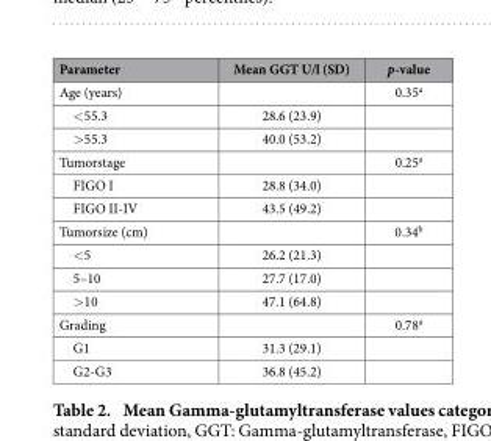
<table><thead><tr><td>Parameter</td><td>Mean GGT U/l (SD)</td><td>p-value</td></tr></thead><tbody><tr><td>Age (years)</td><td></td><td>0.35<sup>a</sup></td></tr><tr><td>&lt; 55.3</td><td>28.6 (23.9)</td><td></td></tr><tr><td>&gt; 55.3</td><td>40.0 (53.2)</td><td></td></tr><tr><td>Tumorstage</td><td></td><td>0.25<sup>a</sup></td></tr><tr><td>FIGO I</td><td>28.8 (34.0)</td><td></td></tr><tr><td>FIGO II-IV</td><td>43.5 (49.2)</td><td></td></tr><tr><td>Tumorsize (cm)</td><td></td><td>0.34<sup>b</sup></td></tr><tr><td>&lt; 5</td><td>26.2 (21.3)</td><td></td></tr><tr><td>5–10</td><td>27.7 (17.0)</td><td></td></tr><tr><td>&gt;10</td><td>47.1 (64.8)</td><td></td></tr><tr><td>Grading</td><td></td><td>0.78<sup>a</sup></td></tr><tr><td>G1</td><td>31.3 (29.1)</td><td></td></tr><tr><td>G2-G3</td><td>36.8 (45.2)</td><td></td></tr></tbody></table>